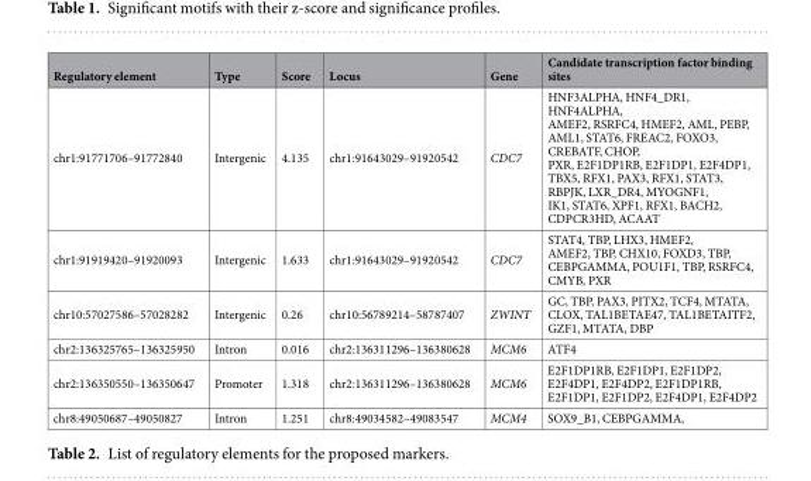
<table><thead><tr><td>Regulatory element</td><td>Type</td><td>Score</td><td>Locus</td><td>Gene</td><td>Candidate transcription factor binding sites</td></tr></thead><tbody><tr><td>chr1:91771706–91772840</td><td>Intergenic</td><td>4.135</td><td>chr1:91643029–91920542</td><td>CDC7</td><td>HNF3ALPHA, HNF4_DR1, HNF4ALPHA, AMEF2, RSRFC4, HMEF2, AML, PEBP, AML1, STAT6, FREAC2, FOXO3, CREBATF, CHOP, PXR, E2F1DP1RB, E2F1DP1, E2F4DP1, TBX5, RFX1, PAX3, RFX1, STAT3, RBPJK, LXR_DR4, MYOGNF1, IK1, STAT6, XPF1, RFX1, BACH2, CDPCR3HD, ACAAT</td></tr><tr><td>chr1:91919420–91920093</td><td>Intergenic</td><td>1.633</td><td>chr1:91643029–91920542</td><td>CDC7</td><td>STAT4, TBP, LHX3, HMEF2, AMEF2, TBP, CHX10, FOXD3, TBP, CEBPGAMMA, POU1F1, TBP, RSRFC4, CMYB, PXR</td></tr><tr><td>chr10:57027586–57028282</td><td>Intergenic</td><td>0.26</td><td>chr10:56789214–58787407</td><td>ZWINT</td><td>GC, TBP, PAX3, PITX2, TCF4, MTATA, CLOX, TAL1BETAE47, TAL1BETAITF2, GZF1, MTATA, DBP</td></tr><tr><td>chr2:136325765–136325950</td><td>Intron</td><td>0.016</td><td>chr2:136311296–136380628</td><td>MCM6</td><td>ATF4</td></tr><tr><td>chr2:136350550–136350647</td><td>Promoter</td><td>1.318</td><td>chr2:136311296–136380628</td><td>MCM6</td><td>E2F1DP1RB, E2F1DP1, E2F1DP2, E2F4DP1, E2F4DP2, E2F1DP1RB, E2F1DP1, E2F1DP2, E2F4DP1, E2F4DP2</td></tr><tr><td>chr8:49050687–49050827</td><td>Intron</td><td>1.251</td><td>chr8:49034582–49083547</td><td>MCM4</td><td>SOX9_B1, CEBPGAMMA,</td></tr></tbody></table>